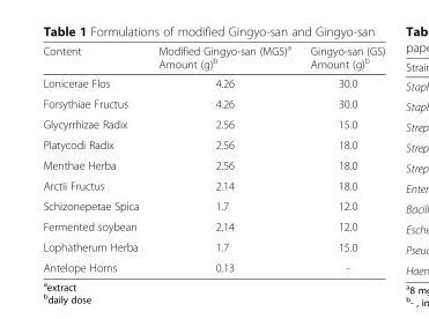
<table><thead><tr><td>Content</td><td>Modified Gingyo-san (MGS)<sup>a</sup> Amount (g)<sup>b</sup></td><td>Gingyo-san (GS) Amount (g)<sup>b</sup></td></tr></thead><tbody><tr><td>Lonicerae Flos</td><td>4.26</td><td>30.0</td></tr><tr><td>Forsythiae Fructus</td><td>4.26</td><td>30.0</td></tr><tr><td>Glycyrrhizae Radix</td><td>2.56</td><td>15.0</td></tr><tr><td>Platycodi Radix</td><td>2.56</td><td>18.0</td></tr><tr><td>Menthae Herba</td><td>2.56</td><td>18.0</td></tr><tr><td>Arctii Fructus</td><td>2.14</td><td>18.0</td></tr><tr><td>Schizonepetae Spica</td><td>1.7</td><td>12.0</td></tr><tr><td>Fermented soybean</td><td>2.14</td><td>12.0</td></tr><tr><td>Lophatherum Herba</td><td>1.7</td><td>15.0</td></tr><tr><td>Antelope Horns</td><td>0.13</td><td>-</td></tr></tbody></table>